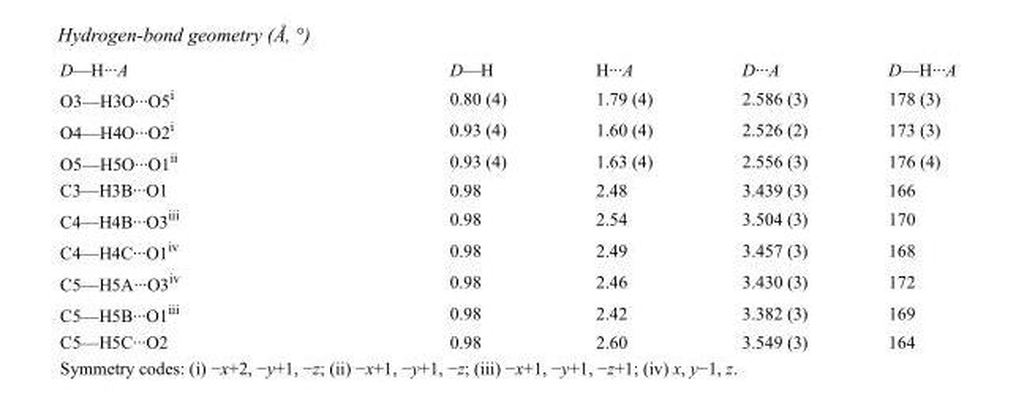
<table><tbody><tr><td>D—H···A</td><td>D—H</td><td>H···A</td><td>D···A</td><td>D—H···A</td></tr><tr><td>O3—H3O···O5<sup>i</sup></td><td>0.80 (4)</td><td>1.79 (4)</td><td>2.586 (3)</td><td>178 (3)</td></tr><tr><td>O4—H4O···O2<sup>i</sup></td><td>0.93 (4)</td><td>1.60 (4)</td><td>2.526 (2)</td><td>173 (3)</td></tr><tr><td>O5—H5O···O1<sup>ii</sup></td><td>0.93 (4)</td><td>1.63 (4)</td><td>2.556 (3)</td><td>176 (4)</td></tr><tr><td>C3—H3B···O1</td><td>0.98</td><td>2.48</td><td>3.439 (3)</td><td>166</td></tr><tr><td>C4—H4B···O3<sup>iii</sup></td><td>0.98</td><td>2.54</td><td>3.504 (3)</td><td>170</td></tr><tr><td>C4—H4C···O1<sup>iv</sup></td><td>0.98</td><td>2.49</td><td>3.457 (3)</td><td>168</td></tr><tr><td>C5—H5A···O3<sup>iv</sup></td><td>0.98</td><td>2.46</td><td>3.430 (3)</td><td>172</td></tr><tr><td>C5—H5B···O1<sup>iii</sup></td><td>0.98</td><td>2.42</td><td>3.382 (3)</td><td>169</td></tr><tr><td>C5—H5C···O2</td><td>0.98</td><td>2.60</td><td>3.549 (3)</td><td>164</td></tr></tbody></table>